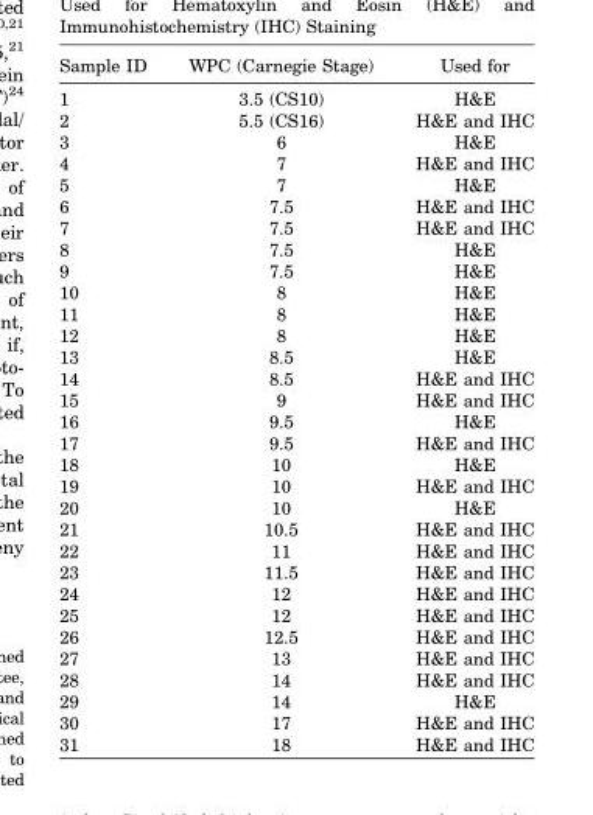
<table><thead><tr><td>Sample ID</td><td>WPC (Carnegie Stage)</td><td>Used for</td></tr></thead><tbody><tr><td>1</td><td>3.5 (CS10)</td><td>H&amp;E</td></tr><tr><td>2</td><td>5.5 (CS16)</td><td>H&amp;E and IHC</td></tr><tr><td>3</td><td>6</td><td>H&amp;E</td></tr><tr><td>4</td><td>7</td><td>H&amp;E and IHC</td></tr><tr><td>5</td><td>7</td><td>H&amp;E</td></tr><tr><td>6</td><td>7.5</td><td>H&amp;E and IHC</td></tr><tr><td>7</td><td>7.5</td><td>H&amp;E and IHC</td></tr><tr><td>8</td><td>7.5</td><td>H&amp;E</td></tr><tr><td>9</td><td>7.5</td><td>H&amp;E</td></tr><tr><td>10</td><td>8</td><td>H&amp;E</td></tr><tr><td>11</td><td>8</td><td>H&amp;E</td></tr><tr><td>12</td><td>8</td><td>H&amp;E</td></tr><tr><td>13</td><td>8.5</td><td>H&amp;E</td></tr><tr><td>14</td><td>8.5</td><td>H&amp;E and IHC</td></tr><tr><td>15</td><td>9</td><td>H&amp;E and IHC</td></tr><tr><td>16</td><td>9.5</td><td>H&amp;E</td></tr><tr><td>17</td><td>9.5</td><td>H&amp;E and IHC</td></tr><tr><td>18</td><td>10</td><td>H&amp;E</td></tr><tr><td>19</td><td>10</td><td>H&amp;E and IHC</td></tr><tr><td>20</td><td>10</td><td>H&amp;E</td></tr><tr><td>21</td><td>10.5</td><td>H&amp;E and IHC</td></tr><tr><td>22</td><td>11</td><td>H&amp;E and IHC</td></tr><tr><td>23</td><td>11.5</td><td>H&amp;E and IHC</td></tr><tr><td>24</td><td>12</td><td>H&amp;E and IHC</td></tr><tr><td>25</td><td>12</td><td>H&amp;E and IHC</td></tr><tr><td>26</td><td>12.5</td><td>H&amp;E and IHC</td></tr><tr><td>27</td><td>13</td><td>H&amp;E and IHC</td></tr><tr><td>28</td><td>14</td><td>H&amp;E and IHC</td></tr><tr><td>29</td><td>14</td><td>H&amp;E</td></tr><tr><td>30</td><td>17</td><td>H&amp;E and IHC</td></tr><tr><td>31</td><td>18</td><td>H&amp;E and IHC</td></tr></tbody></table>